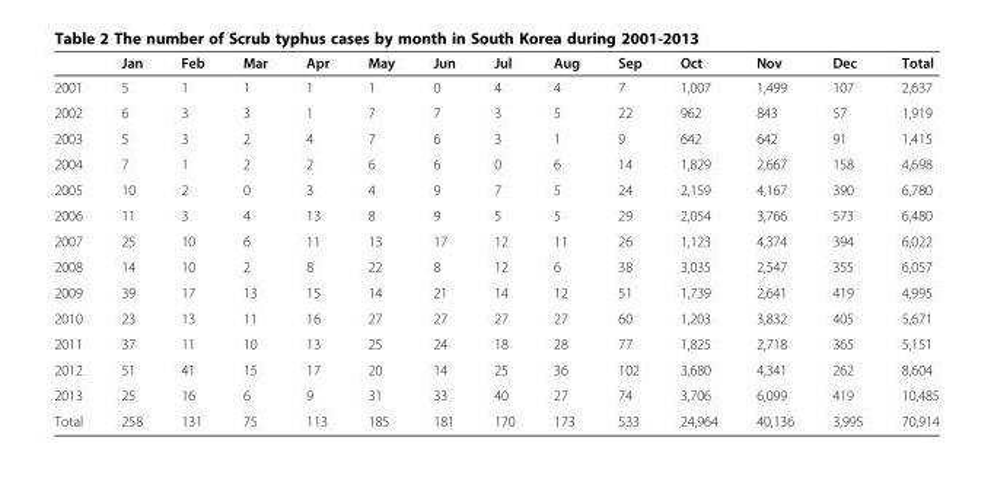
<table><thead><tr><td></td><td>Jan</td><td>Feb</td><td>Mar</td><td>Apr</td><td>May</td><td>Jun</td><td>Jul</td><td>Aug</td><td>Sep</td><td>Oct</td><td>Nov</td><td>Dec</td><td>Total</td></tr></thead><tbody><tr><td>2001</td><td>5</td><td>1</td><td>1</td><td>1</td><td>1</td><td>0</td><td>4</td><td>4</td><td>7</td><td>1,007</td><td>1,499</td><td>107</td><td>2,637</td></tr><tr><td>2002</td><td>6</td><td>3</td><td>3</td><td>1</td><td>7</td><td>7</td><td>3</td><td>5</td><td>22</td><td>962</td><td>843</td><td>57</td><td>1,919</td></tr><tr><td>2003</td><td>5</td><td>3</td><td>2</td><td>4</td><td>7</td><td>6</td><td>3</td><td>1</td><td>9</td><td>642</td><td>642</td><td>91</td><td>1,415</td></tr><tr><td>2004</td><td>7</td><td>1</td><td>2</td><td>2</td><td>6</td><td>6</td><td>0</td><td>6</td><td>14</td><td>1,829</td><td>2,667</td><td>158</td><td>4,698</td></tr><tr><td>2005</td><td>10</td><td>2</td><td>0</td><td>3</td><td>4</td><td>9</td><td>7</td><td>5</td><td>24</td><td>2,159</td><td>4,167</td><td>390</td><td>6,780</td></tr><tr><td>2006</td><td>11</td><td>3</td><td>4</td><td>13</td><td>8</td><td>9</td><td>5</td><td>5</td><td>29</td><td>2,054</td><td>3,766</td><td>573</td><td>6,480</td></tr><tr><td>2007</td><td>25</td><td>10</td><td>6</td><td>11</td><td>13</td><td>17</td><td>12</td><td>11</td><td>26</td><td>1,123</td><td>4,374</td><td>394</td><td>6,022</td></tr><tr><td>2008</td><td>14</td><td>10</td><td>2</td><td>8</td><td>22</td><td>8</td><td>12</td><td>6</td><td>38</td><td>3,035</td><td>2,547</td><td>355</td><td>6,057</td></tr><tr><td>2009</td><td>39</td><td>17</td><td>13</td><td>15</td><td>14</td><td>21</td><td>14</td><td>12</td><td>51</td><td>1,739</td><td>2,641</td><td>419</td><td>4,995</td></tr><tr><td>2010</td><td>23</td><td>13</td><td>11</td><td>16</td><td>27</td><td>27</td><td>27</td><td>27</td><td>60</td><td>1,203</td><td>3,832</td><td>405</td><td>5,671</td></tr><tr><td>2011</td><td>37</td><td>11</td><td>10</td><td>13</td><td>25</td><td>24</td><td>18</td><td>28</td><td>77</td><td>1,825</td><td>2,718</td><td>365</td><td>5,151</td></tr><tr><td>2012</td><td>51</td><td>41</td><td>15</td><td>17</td><td>20</td><td>14</td><td>25</td><td>36</td><td>102</td><td>3,680</td><td>4,341</td><td>262</td><td>8,604</td></tr><tr><td>2013</td><td>25</td><td>16</td><td>6</td><td>9</td><td>31</td><td>33</td><td>40</td><td>27</td><td>74</td><td>3,706</td><td>6,099</td><td>419</td><td>10,485</td></tr><tr><td>Total</td><td>258</td><td>131</td><td>75</td><td>113</td><td>185</td><td>181</td><td>170</td><td>173</td><td>533</td><td>24,964</td><td>40,136</td><td>3,995</td><td>70,914</td></tr></tbody></table>